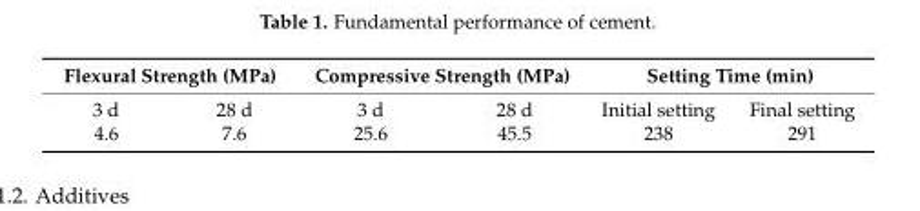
<table><thead><tr><td colspan="2">Flexural Strength (MPa)</td><td colspan="2">Compressive Strength (MPa)</td><td colspan="2">Setting Time (min)</td></tr><tr><td>3 d</td><td>28 d</td><td>3 d</td><td>28 d</td><td>Initial setting</td><td>Final setting</td></tr></thead><tbody><tr><td>4.6</td><td>7.6</td><td>25.6</td><td>45.5</td><td>238</td><td>291</td></tr></tbody></table>